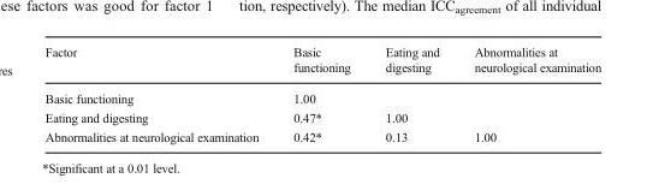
<table><thead><tr><td>Factor</td><td>Basic functioning</td><td>Eating and digesting</td><td>Abnormalities at neurological examination</td></tr></thead><tbody><tr><td>Basic functioning</td><td>1.00</td><td></td><td></td></tr><tr><td>Eating and digesting</td><td>0.47*</td><td>1.00</td><td></td></tr><tr><td>Abnormalities at neurological examination</td><td>0.42*</td><td>0.13</td><td>1.00</td></tr></tbody></table>